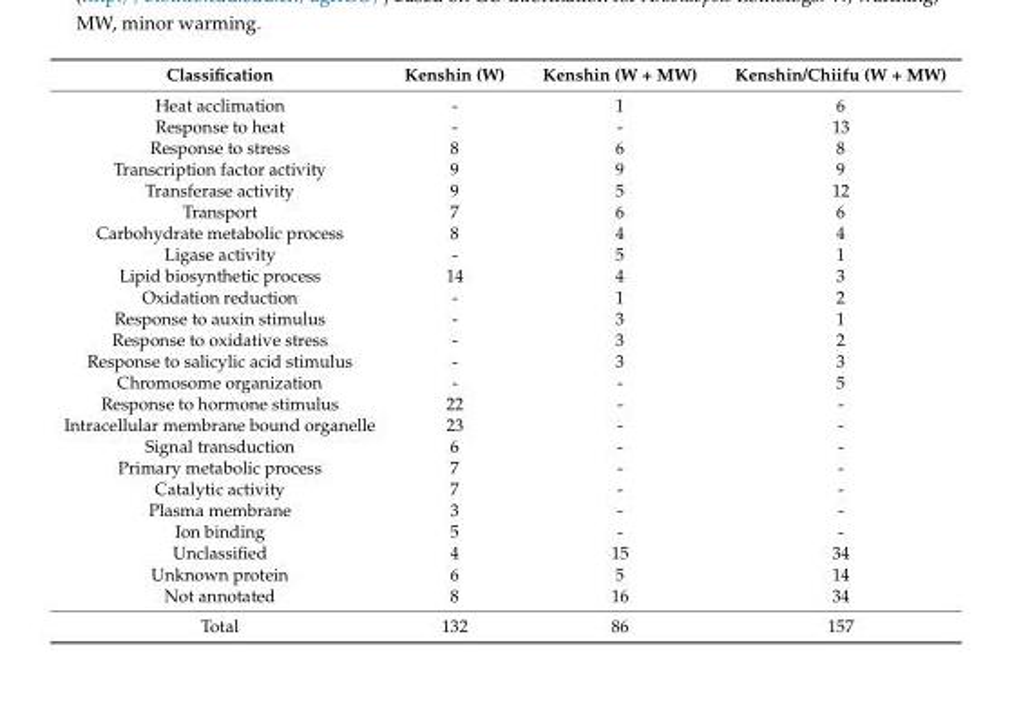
<table><thead><tr><td>Classification</td><td>Kenshin (W)</td><td>Kenshin (W + MW)</td><td>Kenshin/Chiifu (W + MW)</td></tr></thead><tbody><tr><td>Heat acclimation</td><td>-</td><td>1</td><td>6</td></tr><tr><td>Response to heat</td><td>-</td><td>-</td><td>13</td></tr><tr><td>Response to stress</td><td>8</td><td>6</td><td>8</td></tr><tr><td>Transcription factor activity</td><td>9</td><td>9</td><td>9</td></tr><tr><td>Transferase activity</td><td>9</td><td>5</td><td>12</td></tr><tr><td>Transport</td><td>7</td><td>6</td><td>6</td></tr><tr><td>Carbohydrate metabolic process</td><td>8</td><td>4</td><td>4</td></tr><tr><td>Ligase activity</td><td>-</td><td>5</td><td>1</td></tr><tr><td>Lipid biosynthetic process</td><td>14</td><td>4</td><td>3</td></tr><tr><td>Oxidation reduction</td><td>-</td><td>1</td><td>2</td></tr><tr><td>Response to auxin stimulus</td><td>-</td><td>3</td><td>1</td></tr><tr><td>Response to oxidative stress</td><td>-</td><td>3</td><td>2</td></tr><tr><td>Response to salicylic acid stimulus</td><td>-</td><td>3</td><td>3</td></tr><tr><td>Chromosome organization</td><td>-</td><td>-</td><td>5</td></tr><tr><td>Response to hormone stimulus</td><td>22</td><td>-</td><td>-</td></tr><tr><td>Intracellular membrane bound organelle</td><td>23</td><td>-</td><td>-</td></tr><tr><td>Signal transduction</td><td>6</td><td>-</td><td>-</td></tr><tr><td>Primary metabolic process</td><td>7</td><td>-</td><td>-</td></tr><tr><td>Catalytic activity</td><td>7</td><td>-</td><td>-</td></tr><tr><td>Plasma membrane</td><td>3</td><td>-</td><td>-</td></tr><tr><td>Ion binding</td><td>5</td><td>-</td><td>-</td></tr><tr><td>Unclassified</td><td>4</td><td>15</td><td>34</td></tr><tr><td>Unknown protein</td><td>6</td><td>5</td><td>14</td></tr><tr><td>Not annotated</td><td>8</td><td>16</td><td>34</td></tr><tr><td>Total</td><td>132</td><td>86</td><td>157</td></tr></tbody></table>